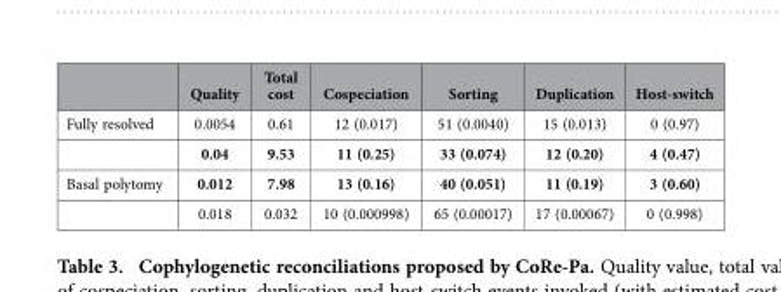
<table><thead><tr><td></td><td>Quality</td><td>Total cost</td><td>Cospeciation</td><td>Sorting</td><td>Duplication</td><td>Host-switch</td></tr></thead><tbody><tr><td rowspan="2">Fully resolved</td><td>0.0054</td><td>0.61</td><td>12 (0.017)</td><td>51 (0.0040)</td><td>15 (0.013)</td><td>0 (0.97)</td></tr><tr><td>0.04</td><td>9.53</td><td>11 (0.25)</td><td>33 (0.074)</td><td>12 (0.20)</td><td>4 (0.47)</td></tr><tr><td rowspan="2">Basal polytomy</td><td>0.012</td><td>7.98</td><td>13 (0.16)</td><td>40 (0.051)</td><td>11 (0.19)</td><td>3 (0.60)</td></tr><tr><td>0.018</td><td>0.032</td><td>10 (0.000998)</td><td>65 (0.00017)</td><td>17 (0.00067)</td><td>0 (0.998)</td></tr></tbody></table>